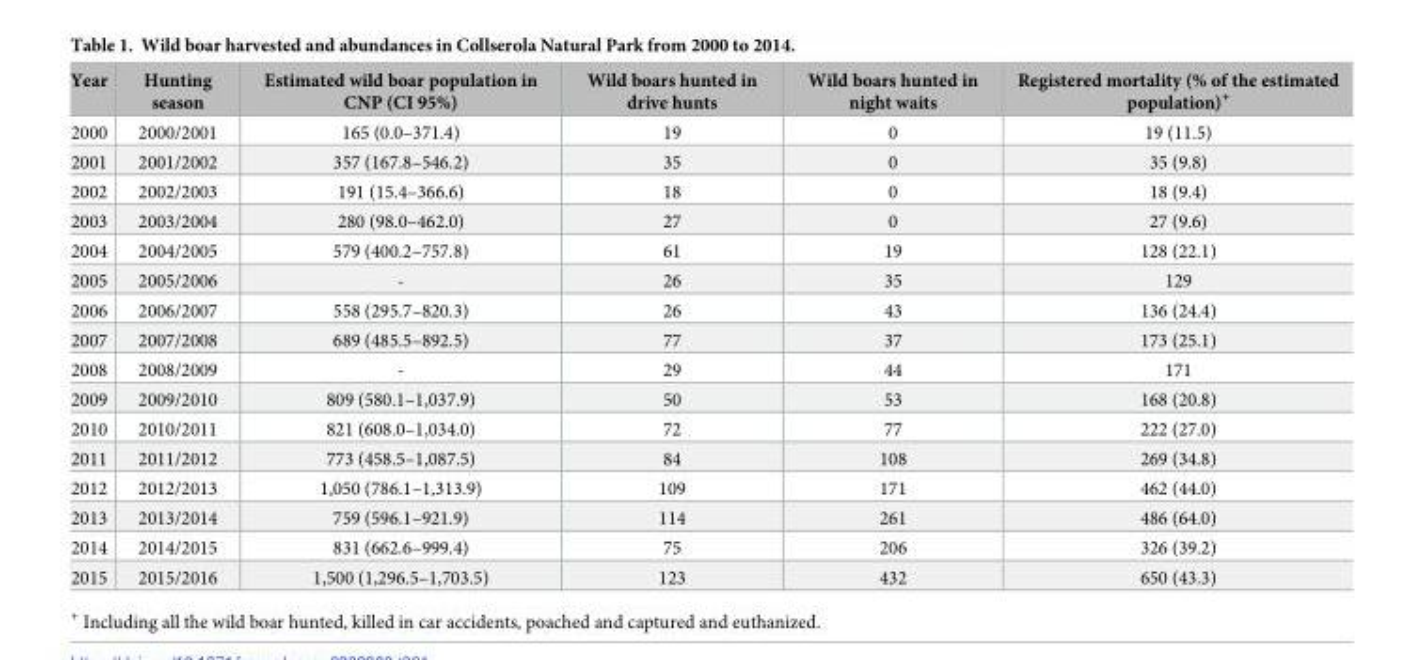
<table><thead><tr><td>Year</td><td>Hunting season</td><td>Estimated wild boar population in CNP (CI 95%)</td><td>Wild boars hunted in drive hunts</td><td>Wild boars hunted in night waits</td><td>Registered mortality (% of the estimated population)<sup>+</sup></td></tr></thead><tbody><tr><td>2000</td><td>2000/2001</td><td>165 (0.0–371.4)</td><td>19</td><td>0</td><td>19 (11.5)</td></tr><tr><td>2001</td><td>2001/2002</td><td>357 (167.8–546.2)</td><td>35</td><td>0</td><td>35 (9.8)</td></tr><tr><td>2002</td><td>2002/2003</td><td>191 (15.4–366.6)</td><td>18</td><td>0</td><td>18 (9.4)</td></tr><tr><td>2003</td><td>2003/2004</td><td>280 (98.0–462.0)</td><td>27</td><td>0</td><td>27 (9.6)</td></tr><tr><td>2004</td><td>2004/2005</td><td>579 (400.2–757.8)</td><td>61</td><td>19</td><td>128 (22.1)</td></tr><tr><td>2005</td><td>2005/2006</td><td>-</td><td>26</td><td>35</td><td>129</td></tr><tr><td>2006</td><td>2006/2007</td><td>558 (295.7–820.3)</td><td>26</td><td>43</td><td>136 (24.4)</td></tr><tr><td>2007</td><td>2007/2008</td><td>689 (485.5–892.5)</td><td>77</td><td>37</td><td>173 (25.1)</td></tr><tr><td>2008</td><td>2008/2009</td><td>-</td><td>29</td><td>44</td><td>171</td></tr><tr><td>2009</td><td>2009/2010</td><td>809 (580.1–1,037.9)</td><td>50</td><td>53</td><td>168 (20.8)</td></tr><tr><td>2010</td><td>2010/2011</td><td>821 (608.0–1,034.0)</td><td>72</td><td>77</td><td>222 (27.0)</td></tr><tr><td>2011</td><td>2011/2012</td><td>773 (458.5–1,087.5)</td><td>84</td><td>108</td><td>269 (34.8)</td></tr><tr><td>2012</td><td>2012/2013</td><td>1,050 (786.1–1,313.9)</td><td>109</td><td>171</td><td>462 (44.0)</td></tr><tr><td>2013</td><td>2013/2014</td><td>759 (596.1–921.9)</td><td>114</td><td>261</td><td>486 (64.0)</td></tr><tr><td>2014</td><td>2014/2015</td><td>831 (662.6–999.4)</td><td>75</td><td>206</td><td>326 (39.2)</td></tr><tr><td>2015</td><td>2015/2016</td><td>1,500 (1,296.5–1,703.5)</td><td>123</td><td>432</td><td>650 (43.3)</td></tr></tbody></table>